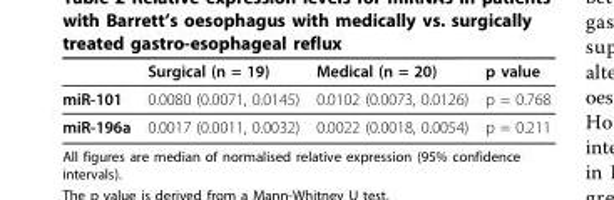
<table><thead><tr><td></td><td>Surgical (n = 19)</td><td>Medical (n = 20)</td><td>p value</td></tr></thead><tbody><tr><td>miR-101</td><td>0.0080 (0.0071, 0.0145)</td><td>0.0102 (0.0073, 0.0126)</td><td>p = 0.768</td></tr><tr><td>miR-196a</td><td>0.0017 (0.0011, 0.0032)</td><td>0.0022 (0.0018, 0.0054)</td><td>p = 0.211</td></tr></tbody></table>